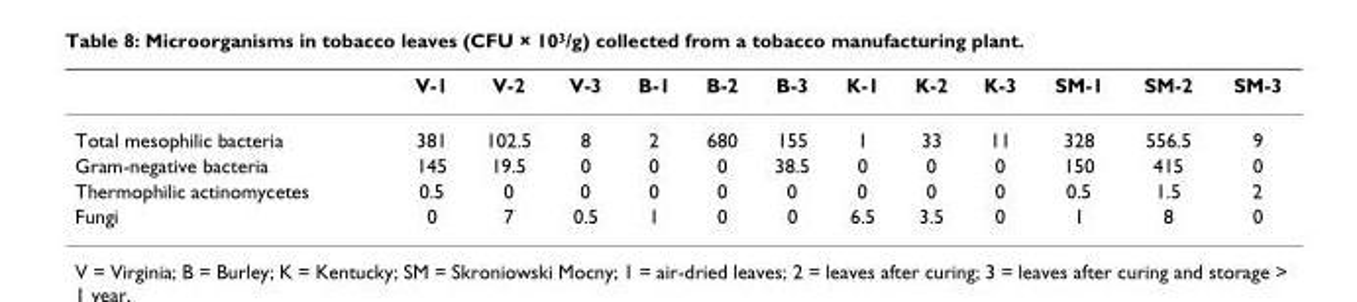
<table><thead><tr><td></td><td>V-1</td><td>V-2</td><td>V-3</td><td>B-1</td><td>B-2</td><td>B-3</td><td>K-1</td><td>K-2</td><td>K-3</td><td>SM-1</td><td>SM-2</td><td>SM-3</td></tr></thead><tbody><tr><td>Total mesophilic bacteria</td><td>381</td><td>102.5</td><td>8</td><td>2</td><td>680</td><td>155</td><td>1</td><td>33</td><td>11</td><td>328</td><td>556.5</td><td>9</td></tr><tr><td>Gram-negative bacteria</td><td>145</td><td>19.5</td><td>0</td><td>0</td><td>0</td><td>38.5</td><td>0</td><td>0</td><td>0</td><td>150</td><td>415</td><td>0</td></tr><tr><td>Thermophilic actinomycetes</td><td>0.5</td><td>0</td><td>0</td><td>0</td><td>0</td><td>0</td><td>0</td><td>0</td><td>0</td><td>0.5</td><td>1.5</td><td>2</td></tr><tr><td>Fungi</td><td>0</td><td>7</td><td>0.5</td><td>1</td><td>0</td><td>0</td><td>6.5</td><td>3.5</td><td>0</td><td>1</td><td>8</td><td>0</td></tr></tbody></table>